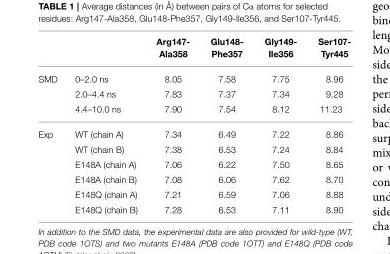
<table><thead><tr><td></td><td></td><td>Arg147- Ala358</td><td>Glu148- Phe357</td><td>Gly149- Ile356</td><td>Ser107- Tyr445</td></tr></thead><tbody><tr><td rowspan="3">SMD</td><td>0–2.0 ns</td><td>8.05</td><td>7.58</td><td>7.75</td><td>8.96</td></tr><tr><td>2.0–4.4 ns</td><td>7.83</td><td>7.37</td><td>7.34</td><td>9.28</td></tr><tr><td>4.4–10.0 ns</td><td>7.90</td><td>7.54</td><td>8.12</td><td>11.23</td></tr><tr><td rowspan="6">Exp</td><td>WT (chain A)</td><td>7.34</td><td>6.49</td><td>7.22</td><td>8.86</td></tr><tr><td>WT (chain B)</td><td>7.38</td><td>6.53</td><td>7.24</td><td>8.84</td></tr><tr><td>E148A (chain A)</td><td>7.06</td><td>6.22</td><td>7.50</td><td>8.65</td></tr><tr><td>E148A (chain B)</td><td>7.08</td><td>6.06</td><td>7.62</td><td>8.70</td></tr><tr><td>E148Q (chain A)</td><td>7.21</td><td>6.59</td><td>7.06</td><td>8.88</td></tr><tr><td>E148Q (chain B)</td><td>7.28</td><td>6.53</td><td>7.11</td><td>8.90</td></tr></tbody></table>